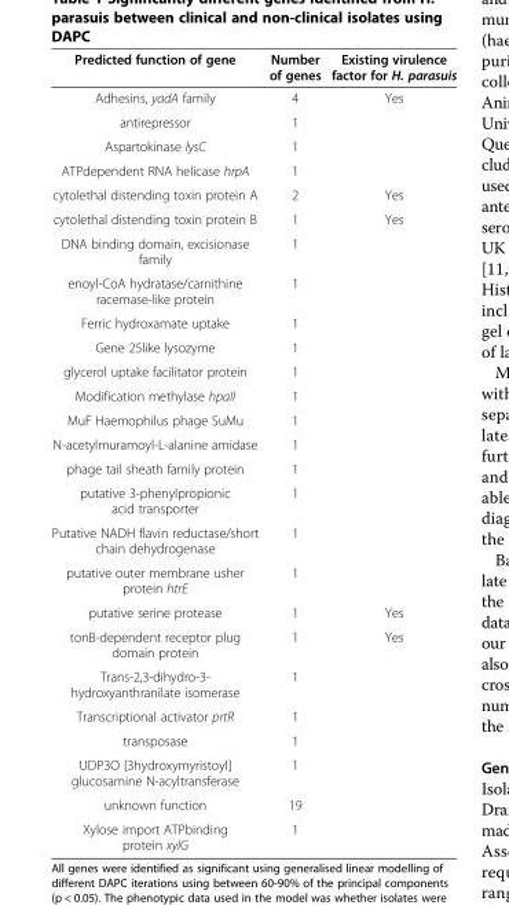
<table><thead><tr><td>Predicted function of gene</td><td>Number of genes</td><td>Existing virulence factor for H. parasuis</td></tr></thead><tbody><tr><td>Adhesins, yadA family</td><td>4</td><td>Yes</td></tr><tr><td>antirepressor</td><td>1</td><td></td></tr><tr><td>Aspartokinase lysC</td><td>1</td><td></td></tr><tr><td>ATPdependent RNA helicase hrpA</td><td>1</td><td></td></tr><tr><td>cytolethal distending toxin protein A</td><td>2</td><td>Yes</td></tr><tr><td>cytolethal distending toxin protein B</td><td>1</td><td>Yes</td></tr><tr><td>DNA binding domain, excisionase family</td><td>1</td><td></td></tr><tr><td>enoyl-CoA hydratase/carnithine racemase-like protein</td><td>1</td><td></td></tr><tr><td>Ferric hydroxamate uptake</td><td>1</td><td></td></tr><tr><td>Gene 25like lysozyme</td><td>1</td><td></td></tr><tr><td>glycerol uptake facilitator protein</td><td>1</td><td></td></tr><tr><td>Modification methylase hpaII</td><td>1</td><td></td></tr><tr><td>MuF Haemophilus phage SuMu</td><td>1</td><td></td></tr><tr><td>N-acetylmuramoyl-L-alanine amidase</td><td>1</td><td></td></tr><tr><td>phage tail sheath family protein</td><td>1</td><td></td></tr><tr><td>putative 3-phenylpropionic acid transporter</td><td>1</td><td></td></tr><tr><td>Putative NADH flavin reductase/short chain dehydrogenase</td><td>1</td><td></td></tr><tr><td>putative outer membrane usher protein htrE</td><td>1</td><td></td></tr><tr><td>putative serine protease</td><td>1</td><td>Yes</td></tr><tr><td>tonB-dependent receptor plug domain protein</td><td>1</td><td>Yes</td></tr><tr><td>Trans-2,3-dihydro-3- hydroxyanthranilate isomerase</td><td>1</td><td></td></tr><tr><td>Transcriptional activator prtR</td><td>1</td><td></td></tr><tr><td>transposase</td><td>1</td><td></td></tr><tr><td>UDP3O [3hydroxymyristoyl] glucosamine N-acyltransferase</td><td>1</td><td></td></tr><tr><td>unknown function</td><td>19</td><td></td></tr><tr><td>Xylose import ATPbinding protein xylG</td><td>1</td><td></td></tr></tbody></table>